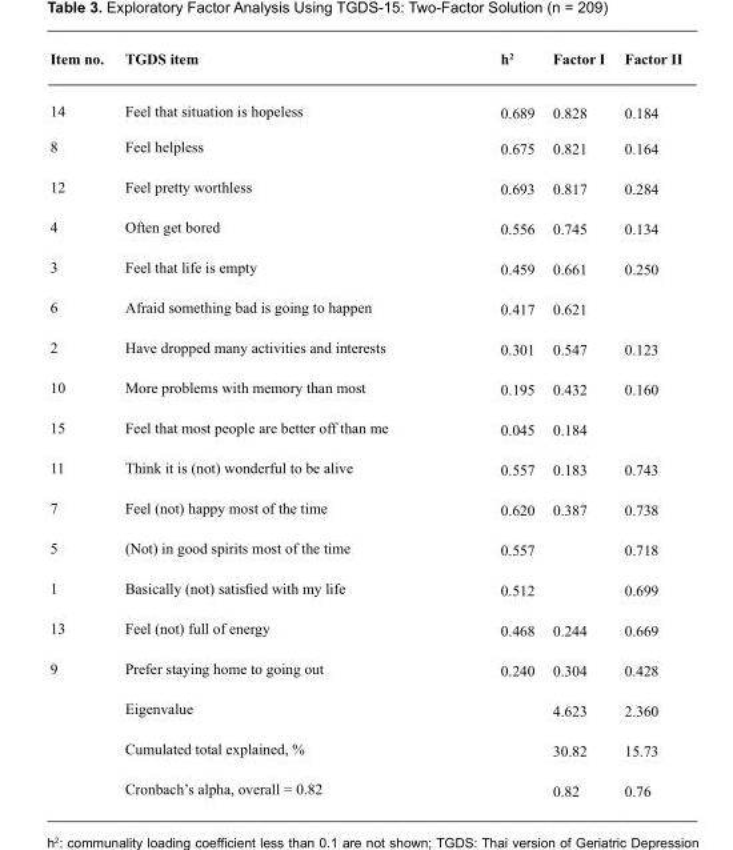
<table><thead><tr><td>Item no.</td><td>TGDS item</td><td>h<sup>2</sup></td><td>Factor I</td><td>Factor II</td></tr></thead><tbody><tr><td>14</td><td>Feel that situation is hopeless</td><td>0.689</td><td>0.828</td><td>0.184</td></tr><tr><td>8</td><td>Feel helpless</td><td>0.675</td><td>0.821</td><td>0.164</td></tr><tr><td>12</td><td>Feel pretty worthless</td><td>0.693</td><td>0.817</td><td>0.284</td></tr><tr><td>4</td><td>Often get bored</td><td>0.556</td><td>0.745</td><td>0.134</td></tr><tr><td>3</td><td>Feel that life is empty</td><td>0.459</td><td>0.661</td><td>0.250</td></tr><tr><td>6</td><td>Afraid something bad is going to happen</td><td>0.417</td><td>0.621</td><td></td></tr><tr><td>2</td><td>Have dropped many activities and interests</td><td>0.301</td><td>0.547</td><td>0.123</td></tr><tr><td>10</td><td>More problems with memory than most</td><td>0.195</td><td>0.432</td><td>0.160</td></tr><tr><td>15</td><td>Feel that most people are better off than me</td><td>0.045</td><td>0.184</td><td></td></tr><tr><td>11</td><td>Think it is (not) wonderful to be alive</td><td>0.557</td><td>0.183</td><td>0.743</td></tr><tr><td>7</td><td>Feel (not) happy most of the time</td><td>0.620</td><td>0.387</td><td>0.738</td></tr><tr><td>5</td><td>(Not) in good spirits most of the time</td><td>0.557</td><td></td><td>0.718</td></tr><tr><td>1</td><td>Basically (not) satisfied with my life</td><td>0.512</td><td></td><td>0.699</td></tr><tr><td>13</td><td>Feel (not) full of energy</td><td>0.468</td><td>0.244</td><td>0.669</td></tr><tr><td rowspan="4">9</td><td>Prefer staying home to going out</td><td>0.240</td><td>0.304</td><td>0.428</td></tr><tr><td>Eigenvalue</td><td></td><td>4.623</td><td>2.360</td></tr><tr><td>Cumulated total explained, %</td><td></td><td>30.82</td><td>15.73</td></tr><tr><td>Cronbach’s alpha, overall = 0.82</td><td></td><td>0.82</td><td>0.76</td></tr></tbody></table>